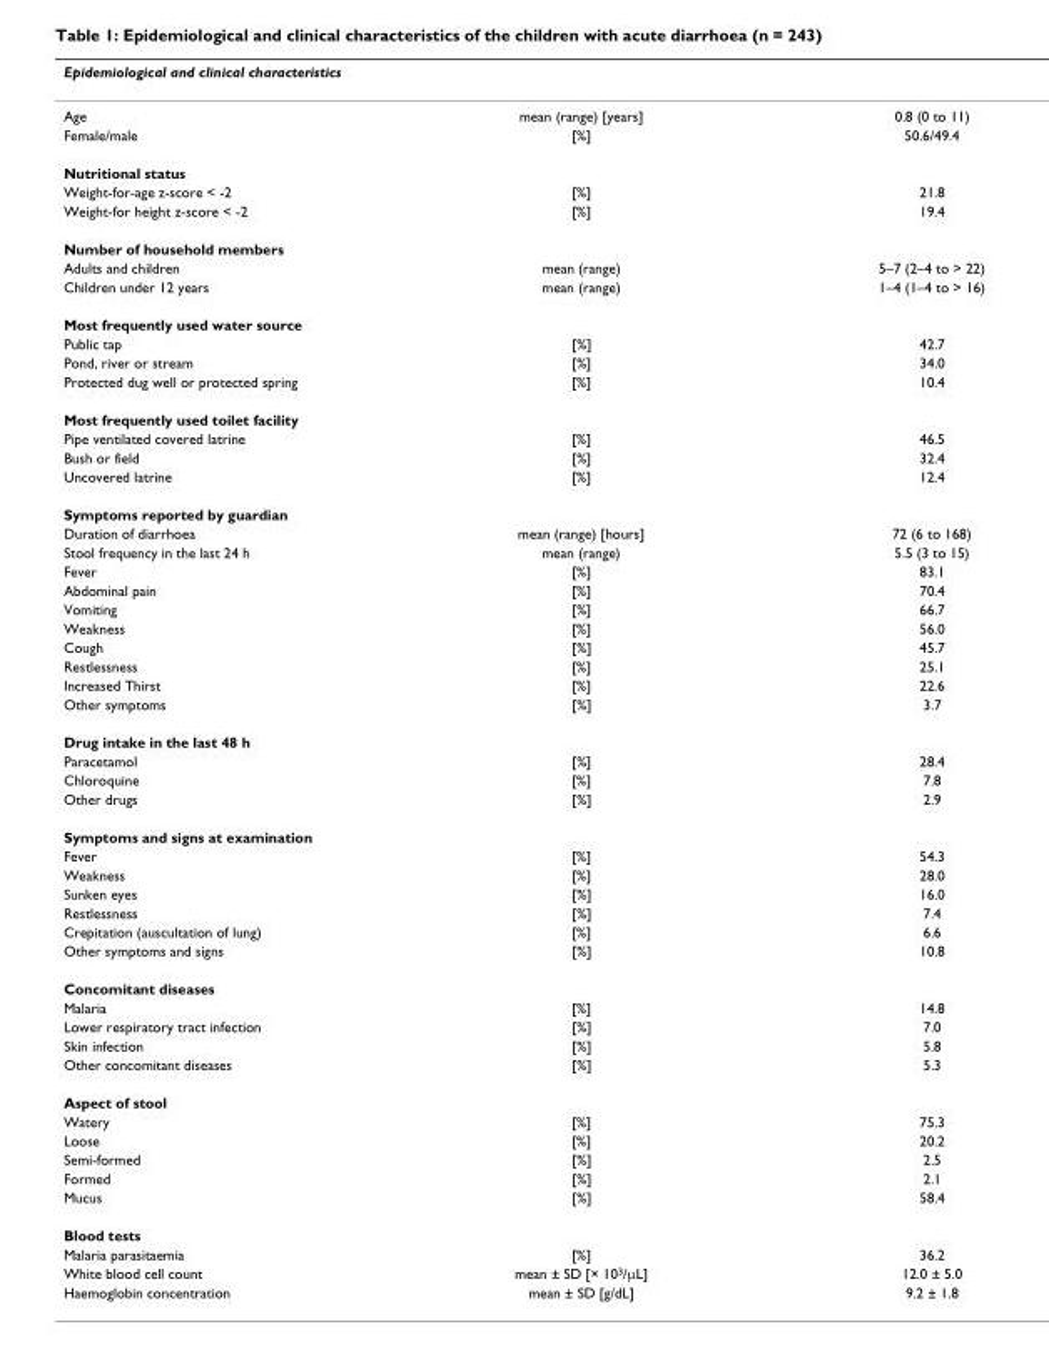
<table><thead><tr><td>Epidemiological and clinical characteristics</td><td></td><td></td></tr></thead><tbody><tr><td>Age</td><td>mean (range) [years]</td><td>0.8 (0 to 11)</td></tr><tr><td>Female/male</td><td>[%]</td><td>50.6/49.4</td></tr><tr><td colspan="3">Nutritional status</td></tr><tr><td>Weight-for-age z-score &lt; -2</td><td>[%]</td><td>21.8</td></tr><tr><td>Weight-for height z-score &lt; -2</td><td>[%]</td><td>19.4</td></tr><tr><td colspan="3">Number of household members</td></tr><tr><td>Adults and children</td><td>mean (range)</td><td>5–7 (2–4 to &gt; 22)</td></tr><tr><td>Children under 12 years</td><td>mean (range)</td><td>1–4 (1–4 to &gt; 16)</td></tr><tr><td colspan="3">Most frequently used water source</td></tr><tr><td>Public tap</td><td>[%]</td><td>42.7</td></tr><tr><td>Pond, river or stream</td><td>[%]</td><td>34.0</td></tr><tr><td>Protected dug well or protected spring</td><td>[%]</td><td>10.4</td></tr><tr><td colspan="3">Most frequently used toilet facility</td></tr><tr><td>Pipe ventilated covered latrine</td><td>[%]</td><td>46.5</td></tr><tr><td>Bush or field</td><td>[%]</td><td>32.4</td></tr><tr><td>Uncovered latrine</td><td>[%]</td><td>12.4</td></tr><tr><td colspan="3">Symptoms reported by guardian</td></tr><tr><td>Duration of diarrhoea</td><td>mean (range) [hours]</td><td>72 (6 to 168)</td></tr><tr><td>Stool frequency in the last 24 h</td><td>mean (range)</td><td>5.5 (3 to 15)</td></tr><tr><td>Fever</td><td>[%]</td><td>83.1</td></tr><tr><td>Abdominal pain</td><td>[%]</td><td>70.4</td></tr><tr><td>Vomiting</td><td>[%]</td><td>66.7</td></tr><tr><td>Weakness</td><td>[%]</td><td>56.0</td></tr><tr><td>Cough</td><td>[%]</td><td>45.7</td></tr><tr><td>Restlessness</td><td>[%]</td><td>25.1</td></tr><tr><td>Increased Thirst</td><td>[%]</td><td>22.6</td></tr><tr><td>Other symptoms</td><td>[%]</td><td>3.7</td></tr><tr><td colspan="3">Drug intake in the last 48 h</td></tr><tr><td>Paracetamol</td><td>[%]</td><td>28.4</td></tr><tr><td>Chloroquine</td><td>[%]</td><td>7.8</td></tr><tr><td>Other drugs</td><td>[%]</td><td>2.9</td></tr><tr><td colspan="3">Symptoms and signs at examination</td></tr><tr><td>Fever</td><td>[%]</td><td>54.3</td></tr><tr><td>Weakness</td><td>[%]</td><td>28.0</td></tr><tr><td>Sunken eyes</td><td>[%]</td><td>16.0</td></tr><tr><td>Restlessness</td><td>[%]</td><td>7.4</td></tr><tr><td>Crepitation (auscultation of lung)</td><td>[%]</td><td>6.6</td></tr><tr><td>Other symptoms and signs</td><td>[%]</td><td>10.8</td></tr><tr><td colspan="3">Concomitant diseases</td></tr><tr><td>Malaria</td><td>[%]</td><td>14.8</td></tr><tr><td>Lower respiratory tract infection</td><td>[%]</td><td>7.0</td></tr><tr><td>Skin infection</td><td>[%]</td><td>5.8</td></tr><tr><td>Other concomitant diseases</td><td>[%]</td><td>5.3</td></tr><tr><td colspan="3">Aspect of stool</td></tr><tr><td>Watery</td><td>[%]</td><td>75.3</td></tr><tr><td>Loose</td><td>[%]</td><td>20.2</td></tr><tr><td>Semi-formed</td><td>[%]</td><td>2.5</td></tr><tr><td>Formed</td><td>[%]</td><td>2.1</td></tr><tr><td>Mucus</td><td>[%]</td><td>58.4</td></tr><tr><td colspan="3">Blood tests</td></tr><tr><td>Malaria parasitaemia</td><td>[%]</td><td>36.2</td></tr><tr><td>White blood cell count</td><td>mean ± SD [× 10<sup>3</sup>/µL]</td><td>12.0 ± 5.0</td></tr><tr><td>Haemoglobin concentration</td><td>mean ± SD [g/dL]</td><td>9.2 ± 1.8</td></tr></tbody></table>